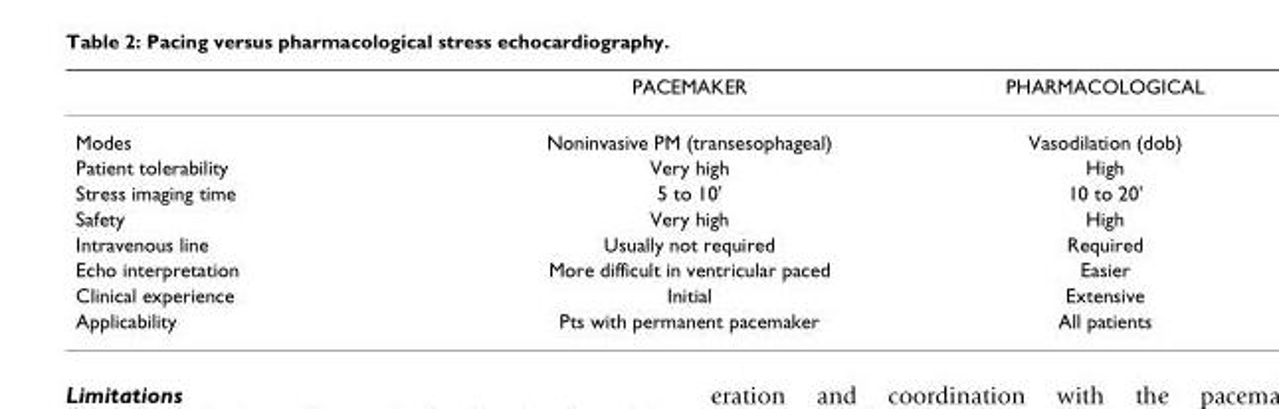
<table><thead><tr><td></td><td>PACEMAKER</td><td>PHARMACOLOGICAL</td></tr></thead><tbody><tr><td>Modes</td><td>Noninvasive PM (transesophageal)</td><td>Vasodilation (dob)</td></tr><tr><td>Patient tolerability</td><td>Very high</td><td>High</td></tr><tr><td>Stress imaging time</td><td>5 to 10&#x27;</td><td>10 to 20&#x27;</td></tr><tr><td>Safety</td><td>Very high</td><td>High</td></tr><tr><td>Intravenous line</td><td>Usually not required</td><td>Required</td></tr><tr><td>Echo interpretation</td><td>More difficult in ventricular paced</td><td>Easier</td></tr><tr><td>Clinical experience</td><td>Initial</td><td>Extensive</td></tr><tr><td>Applicability</td><td>Pts with permanent pacemaker</td><td>All patients</td></tr></tbody></table>